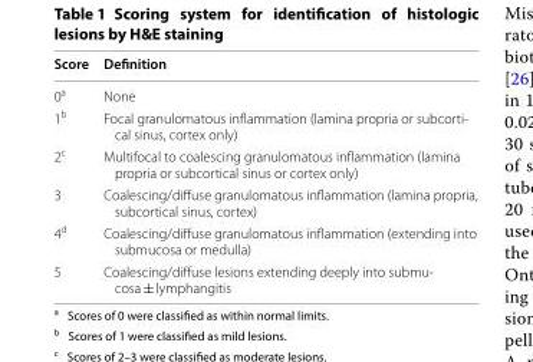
<table><thead><tr><td>Score</td><td>Definition</td></tr></thead><tbody><tr><td>0<sup>a</sup></td><td>None</td></tr><tr><td>1<sup>b</sup></td><td>Focal granulomatous inflammation (lamina propria or subcorti- cal sinus, cortex only)</td></tr><tr><td>2<sup>c</sup></td><td>Multifocal to coalescing granulomatous inflammation (lamina propria or subcortical sinus or cortex only)</td></tr><tr><td>3</td><td>Coalescing/diffuse granulomatous inflammation (lamina propria, subcortical sinus, cortex)</td></tr><tr><td>4<sup>d</sup></td><td>Coalescing/diffuse granulomatous inflammation (extending into submucosa or medulla)</td></tr><tr><td>5</td><td>Coalescing/diffuse lesions extending deeply into submu- cosa ± lymphangitis</td></tr></tbody></table>